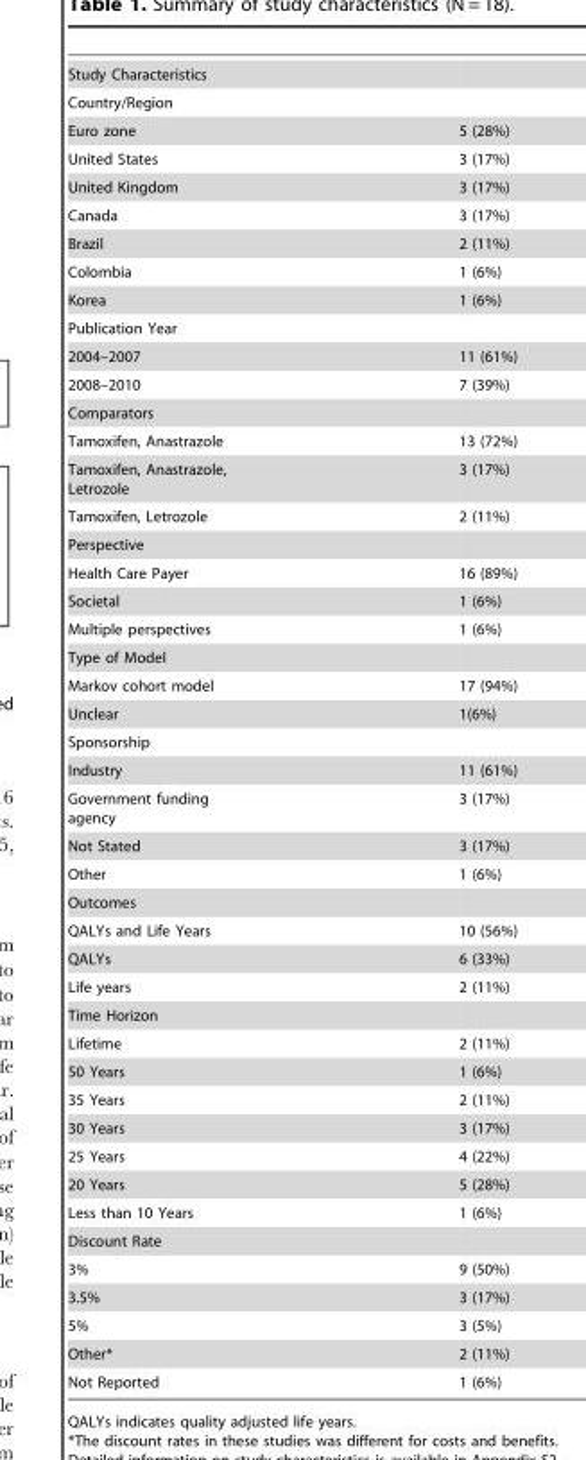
<table><tbody><tr><td colspan="2">Study Characteristics</td></tr><tr><td colspan="2">Country/Region</td></tr><tr><td>Euro zone</td><td>5 (28%)</td></tr><tr><td>United States</td><td>3 (17%)</td></tr><tr><td>United Kingdom</td><td>3 (17%)</td></tr><tr><td>Canada</td><td>3 (17%)</td></tr><tr><td>Brazil</td><td>2 (11%)</td></tr><tr><td>Colombia</td><td>1 (6%)</td></tr><tr><td>Korea</td><td>1 (6%)</td></tr><tr><td colspan="2">Publication Year</td></tr><tr><td>2004–2007</td><td>11 (61%)</td></tr><tr><td>2008–2010</td><td>7 (39%)</td></tr><tr><td colspan="2">Comparators</td></tr><tr><td>Tamoxifen, Anastrazole</td><td>13 (72%)</td></tr><tr><td>Tamoxifen, Anastrazole, Letrozole</td><td>3 (17%)</td></tr><tr><td>Tamoxifen, Letrozole</td><td>2 (11%)</td></tr><tr><td colspan="2">Perspective</td></tr><tr><td>Health Care Payer</td><td>16 (89%)</td></tr><tr><td>Societal</td><td>1 (6%)</td></tr><tr><td>Multiple perspectives</td><td>1 (6%)</td></tr><tr><td colspan="2">Type of Model</td></tr><tr><td>Markov cohort model</td><td>17 (94%)</td></tr><tr><td>Unclear</td><td>1(6%)</td></tr><tr><td colspan="2">Sponsorship</td></tr><tr><td>Industry</td><td>11 (61%)</td></tr><tr><td>Government funding agency</td><td>3 (17%)</td></tr><tr><td>Not Stated</td><td>3 (17%)</td></tr><tr><td>Other</td><td>1 (6%)</td></tr><tr><td colspan="2">Outcomes</td></tr><tr><td>QALYs and Life Years</td><td>10 (56%)</td></tr><tr><td>QALYs</td><td>6 (33%)</td></tr><tr><td>Life years</td><td>2 (11%)</td></tr><tr><td colspan="2">Time Horizon</td></tr><tr><td>Lifetime</td><td>2 (11%)</td></tr><tr><td>50 Years</td><td>1 (6%)</td></tr><tr><td>35 Years</td><td>2 (11%)</td></tr><tr><td>30 Years</td><td>3 (17%)</td></tr><tr><td>25 Years</td><td>4 (22%)</td></tr><tr><td>20 Years</td><td>5 (28%)</td></tr><tr><td>Less than 10 Years</td><td>1 (6%)</td></tr><tr><td colspan="2">Discount Rate</td></tr><tr><td>3%</td><td>9 (50%)</td></tr><tr><td>3.5%</td><td>3 (17%)</td></tr><tr><td>5%</td><td>3 (5%)</td></tr><tr><td>Other*</td><td>2 (11%)</td></tr><tr><td>Not Reported</td><td>1 (6%)</td></tr></tbody></table>